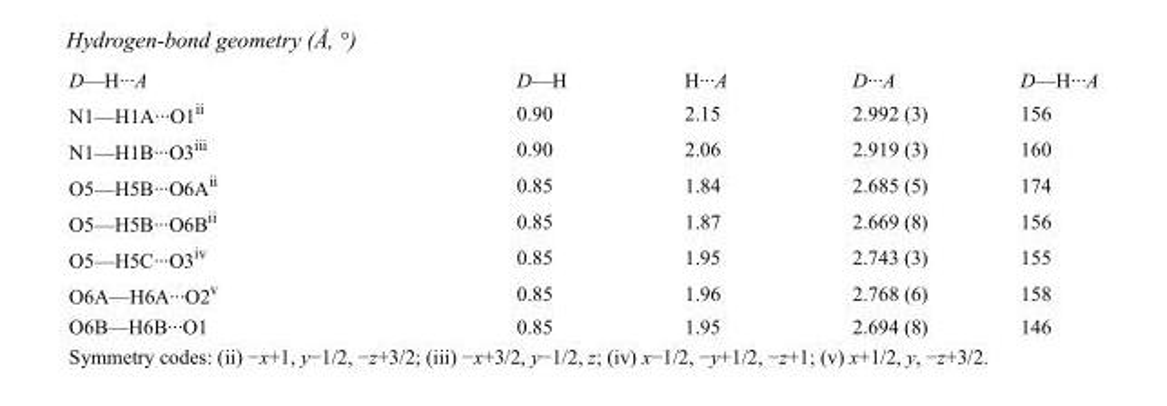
<table><tbody><tr><td>D—H···A</td><td>D—H</td><td>H···A</td><td>D···A</td><td>D—H···A</td></tr><tr><td>N1—H1A···O1<sup>ii</sup></td><td>0.90</td><td>2.15</td><td>2.992 (3)</td><td>156</td></tr><tr><td>N1—H1B···O3<sup>iii</sup></td><td>0.90</td><td>2.06</td><td>2.919 (3)</td><td>160</td></tr><tr><td>O5—H5B···O6A<sup>ii</sup></td><td>0.85</td><td>1.84</td><td>2.685 (5)</td><td>174</td></tr><tr><td>O5—H5B···O6B<sup>ii</sup></td><td>0.85</td><td>1.87</td><td>2.669 (8)</td><td>156</td></tr><tr><td>O5—H5C···O3<sup>iv</sup></td><td>0.85</td><td>1.95</td><td>2.743 (3)</td><td>155</td></tr><tr><td>O6A—H6A···O2<sup>v</sup></td><td>0.85</td><td>1.96</td><td>2.768 (6)</td><td>158</td></tr><tr><td>O6B—H6B···O1</td><td>0.85</td><td>1.95</td><td>2.694 (8)</td><td>146</td></tr></tbody></table>